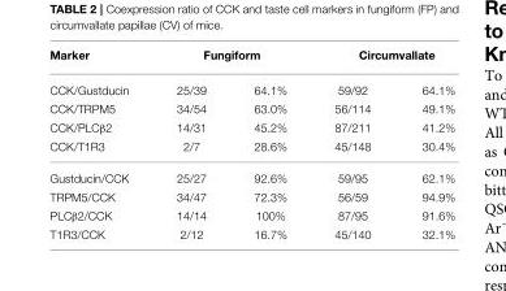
<table><thead><tr><td rowspan="2">Marker CCK/Gustducin</td><td colspan="2">Fungiform</td><td colspan="2">Circumvallate</td></tr><tr><td>25/39</td><td>64.1%</td><td>59/92</td><td>64.1%</td></tr></thead><tbody><tr><td>CCK/TRPM5</td><td>34/54</td><td>63.0%</td><td>56/114</td><td>49.1%</td></tr><tr><td>CCK/PLCβ2</td><td>14/31</td><td>45.2%</td><td>87/211</td><td>41.2%</td></tr><tr><td>CCK/T1R3</td><td>2/7</td><td>28.6%</td><td>45/148</td><td>30.4%</td></tr><tr><td>Gustducin/CCK</td><td>25/27</td><td>92.6%</td><td>59/95</td><td>62.1%</td></tr><tr><td>TRPM5/CCK</td><td>34/47</td><td>72.3%</td><td>56/59</td><td>94.9%</td></tr><tr><td>PLCβ2/CCK</td><td>14/14</td><td>100%</td><td>87/95</td><td>91.6%</td></tr><tr><td>T1R3/CCK</td><td>2/12</td><td>16.7%</td><td>45/140</td><td>32.1%</td></tr></tbody></table>